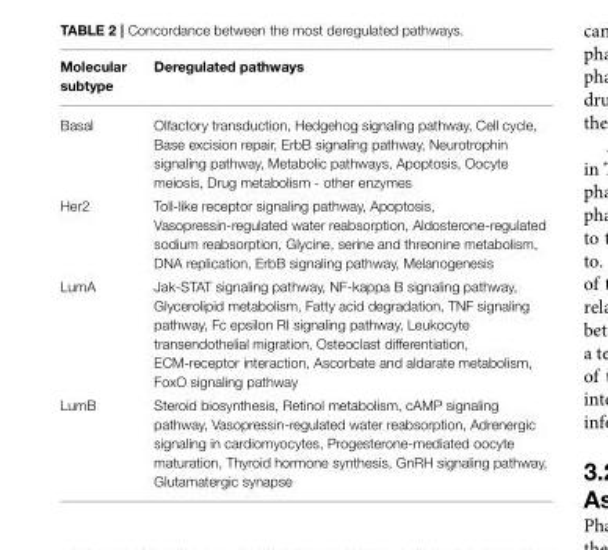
<table><thead><tr><td>Molecular subtype</td><td>Deregulated pathways</td></tr></thead><tbody><tr><td>Basal</td><td>Olfactory transduction, Hedgehog signaling pathway, Cell cycle, Base excision repair, ErbB signaling pathway, Neurotrophin signaling pathway, Metabolic pathways, Apoptosis, Oocyte meiosis, Drug metabolism - other enzymes</td></tr><tr><td>Her2</td><td>Toll-like receptor signaling pathway, Apoptosis, Vasopressin-regulated water reabsorption, Aldosterone-regulated sodium reabsorption, Glycine, serine and threonine metabolism, DNA replication, ErbB signaling pathway, Melanogenesis</td></tr><tr><td>LumA</td><td>Jak-STAT signaling pathway, NF-kappa B signaling pathway, Glycerolipid metabolism, Fatty acid degradation, TNF signaling pathway, Fc epsilon RI signaling pathway, Leukocyte transendothelial migration, Osteoclast differentiation, ECM-receptor interaction, Ascorbate and aldarate metabolism, FoxO signaling pathway</td></tr><tr><td>LumB</td><td>Steroid biosynthesis, Retinol metabolism, cAMP signaling pathway, Vasopressin-regulated water reabsorption, Adrenergic signaling in cardiomyocytes, Progesterone-mediated oocyte maturation, Thyroid hormone synthesis, GnRH signaling pathway, Glutamatergic synapse</td></tr></tbody></table>